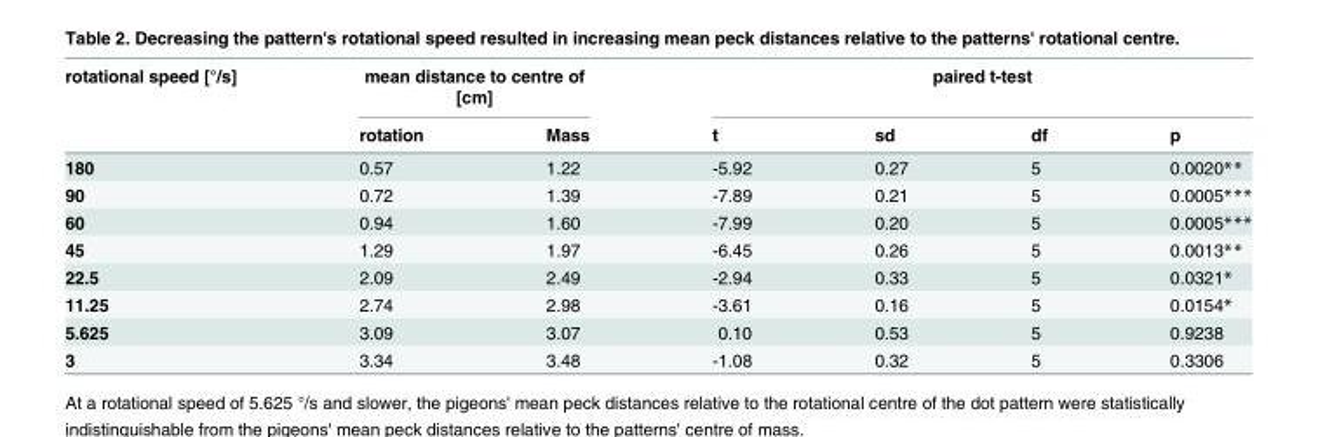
<table><thead><tr><td rowspan="2">rotational speed [°/s]</td><td colspan="2">mean distance to centre of [cm]</td><td colspan="4">paired t-test</td></tr><tr><td>rotation</td><td>Mass</td><td>t</td><td>sd</td><td>df</td><td>p</td></tr></thead><tbody><tr><td>180</td><td>0.57</td><td>1.22</td><td>-5.92</td><td>0.27</td><td>5</td><td>0.0020**</td></tr><tr><td>90</td><td>0.72</td><td>1.39</td><td>-7.89</td><td>0.21</td><td>5</td><td>0.0005***</td></tr><tr><td>60</td><td>0.94</td><td>1.60</td><td>-7.99</td><td>0.20</td><td>5</td><td>0.0005***</td></tr><tr><td>45</td><td>1.29</td><td>1.97</td><td>-6.45</td><td>0.26</td><td>5</td><td>0.0013**</td></tr><tr><td>22.5</td><td>2.09</td><td>2.49</td><td>-2.94</td><td>0.33</td><td>5</td><td>0.0321*</td></tr><tr><td>11.25</td><td>2.74</td><td>2.98</td><td>-3.61</td><td>0.16</td><td>5</td><td>0.0154*</td></tr><tr><td>5.625</td><td>3.09</td><td>3.07</td><td>0.10</td><td>0.53</td><td>5</td><td>0.9238</td></tr><tr><td>3</td><td>3.34</td><td>3.48</td><td>-1.08</td><td>0.32</td><td>5</td><td>0.3306</td></tr></tbody></table>